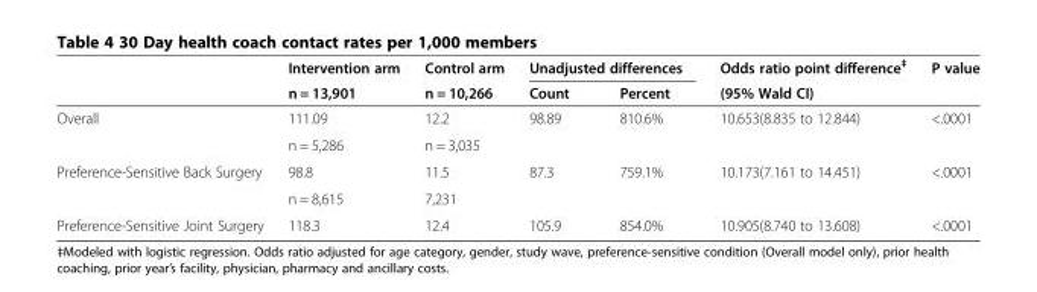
<table><thead><tr><td rowspan="2"></td><td rowspan="2">Intervention arm n = 13,901</td><td rowspan="2">Control arm n = 10,266</td><td colspan="2">Unadjusted differences</td><td rowspan="2">Odds ratio point difference<sup>‡</sup> (95% Wald CI)</td><td rowspan="2">P value</td></tr><tr><td>Count</td><td>Percent</td></tr></thead><tbody><tr><td rowspan="2">Overall</td><td>111.09</td><td>12.2</td><td>98.89</td><td>810.6%</td><td>10.653(8.835 to 12.844)</td><td>&lt;.0001</td></tr><tr><td>n = 5,286</td><td>n = 3,035</td><td></td><td></td><td></td><td></td></tr><tr><td rowspan="2">Preference-Sensitive Back Surgery</td><td>98.8</td><td>11.5</td><td>87.3</td><td>759.1%</td><td>10.173(7.161 to 14.451)</td><td>&lt;.0001</td></tr><tr><td>n = 8,615</td><td>7,231</td><td></td><td></td><td></td><td></td></tr><tr><td>Preference-Sensitive Joint Surgery</td><td>118.3</td><td>12.4</td><td>105.9</td><td>854.0%</td><td>10.905(8.740 to 13.608)</td><td>&lt;.0001</td></tr></tbody></table>